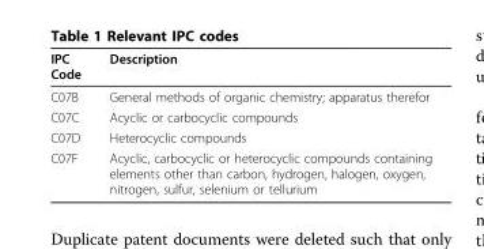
<table><thead><tr><td>IPC Code</td><td>Description</td></tr></thead><tbody><tr><td>C07B</td><td>General methods of organic chemistry; apparatus therefor</td></tr><tr><td>C07C</td><td>Acyclic or carbocyclic compounds</td></tr><tr><td>C07D</td><td>Heterocyclic compounds</td></tr><tr><td>C07F</td><td>Acyclic, carbocyclic or heterocyclic compounds containing elements other than carbon, hydrogen, halogen, oxygen, nitrogen, sulfur, selenium or tellurium</td></tr></tbody></table>